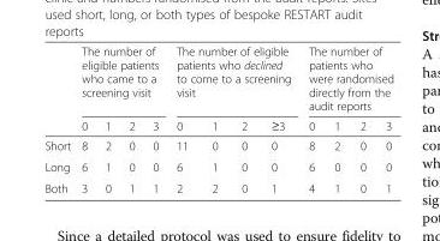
<table><thead><tr><td rowspan="2"></td><td colspan="4">The number of eligible patients who came to a screening visit</td><td colspan="4">The number of eligible patients who declined to come to a screening visit</td><td colspan="4">The number of patients who were randomised directly from the audit reports</td></tr><tr><td>0</td><td>1</td><td>2</td><td>3</td><td>0</td><td>1</td><td>2</td><td>≥3</td><td>0</td><td>1</td><td>2</td><td>3</td></tr></thead><tbody><tr><td>Short</td><td>8</td><td>2</td><td>0</td><td>0</td><td>11</td><td>0</td><td>0</td><td>0</td><td>8</td><td>2</td><td>0</td><td>0</td></tr><tr><td>Long</td><td>6</td><td>1</td><td>0</td><td>0</td><td>6</td><td>1</td><td>0</td><td>0</td><td>6</td><td>0</td><td>0</td><td>0</td></tr><tr><td>Both</td><td>3</td><td>0</td><td>1</td><td>1</td><td>2</td><td>2</td><td>0</td><td>1</td><td>4</td><td>1</td><td>0</td><td>1</td></tr></tbody></table>